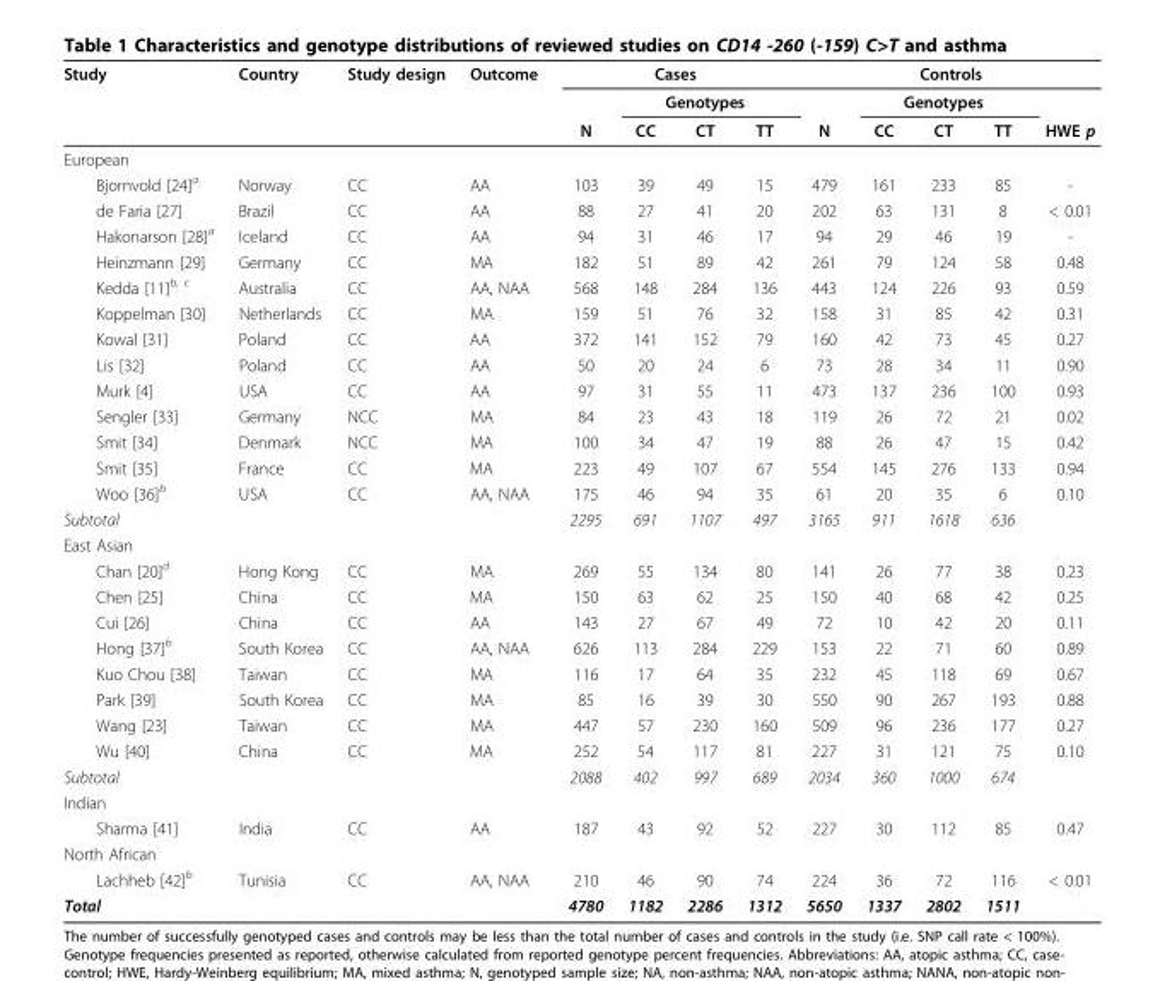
<table><thead><tr><td rowspan="3">Study</td><td rowspan="3">Country</td><td rowspan="3">Study design</td><td rowspan="3">Outcome</td><td colspan="4">Cases</td><td colspan="5">Controls</td></tr><tr><td rowspan="2">N</td><td colspan="3">Genotypes</td><td rowspan="2">N</td><td colspan="3">Genotypes</td><td rowspan="2">HWE p</td></tr><tr><td>CC</td><td>CT</td><td>TT</td><td>CC</td><td>CT</td><td>TT</td></tr></thead><tbody><tr><td colspan="13">European</td></tr><tr><td>Bjornvold [24]<sup>a</sup></td><td>Norway</td><td>CC</td><td>AA</td><td>103</td><td>39</td><td>49</td><td>15</td><td>479</td><td>161</td><td>233</td><td>85</td><td>-</td></tr><tr><td>de Faria [27]</td><td>Brazil</td><td>CC</td><td>AA</td><td>88</td><td>27</td><td>41</td><td>20</td><td>202</td><td>63</td><td>131</td><td>8</td><td>&lt; 0.01</td></tr><tr><td>Hakonarson [28]<sup>a</sup></td><td>Iceland</td><td>CC</td><td>AA</td><td>94</td><td>31</td><td>46</td><td>17</td><td>94</td><td>29</td><td>46</td><td>19</td><td>-</td></tr><tr><td>Heinzmann [29]</td><td>Germany</td><td>CC</td><td>MA</td><td>182</td><td>51</td><td>89</td><td>42</td><td>261</td><td>79</td><td>124</td><td>58</td><td>0.48</td></tr><tr><td>Kedda [11]<sup>b, c</sup></td><td>Australia</td><td>CC</td><td>AA, NAA</td><td>568</td><td>148</td><td>284</td><td>136</td><td>443</td><td>124</td><td>226</td><td>93</td><td>0.59</td></tr><tr><td>Koppelman [30]</td><td>Netherlands</td><td>CC</td><td>MA</td><td>159</td><td>51</td><td>76</td><td>32</td><td>158</td><td>31</td><td>85</td><td>42</td><td>0.31</td></tr><tr><td>Kowal [31]</td><td>Poland</td><td>CC</td><td>AA</td><td>372</td><td>141</td><td>152</td><td>79</td><td>160</td><td>42</td><td>73</td><td>45</td><td>0.27</td></tr><tr><td>Lis [32]</td><td>Poland</td><td>CC</td><td>AA</td><td>50</td><td>20</td><td>24</td><td>6</td><td>73</td><td>28</td><td>34</td><td>11</td><td>0.90</td></tr><tr><td>Murk [4]</td><td>USA</td><td>CC</td><td>AA</td><td>97</td><td>31</td><td>55</td><td>11</td><td>473</td><td>137</td><td>236</td><td>100</td><td>0.93</td></tr><tr><td>Sengler [33]</td><td>Germany</td><td>NCC</td><td>MA</td><td>84</td><td>23</td><td>43</td><td>18</td><td>119</td><td>26</td><td>72</td><td>21</td><td>0.02</td></tr><tr><td>Smit [34]</td><td>Denmark</td><td>NCC</td><td>MA</td><td>100</td><td>34</td><td>47</td><td>19</td><td>88</td><td>26</td><td>47</td><td>15</td><td>0.42</td></tr><tr><td>Smit [35]</td><td>France</td><td>CC</td><td>MA</td><td>223</td><td>49</td><td>107</td><td>67</td><td>554</td><td>145</td><td>276</td><td>133</td><td>0.94</td></tr><tr><td>Woo [36]<sup>b</sup></td><td>USA</td><td>CC</td><td>AA, NAA</td><td>175</td><td>46</td><td>94</td><td>35</td><td>61</td><td>20</td><td>35</td><td>6</td><td>0.10</td></tr><tr><td>Subtotal</td><td></td><td></td><td></td><td>2295</td><td>691</td><td>1107</td><td>497</td><td>3165</td><td>911</td><td>1618</td><td>636</td><td></td></tr><tr><td colspan="13">East Asian</td></tr><tr><td>Chan [20]<sup>d</sup></td><td>Hong Kong</td><td>CC</td><td>MA</td><td>269</td><td>55</td><td>134</td><td>80</td><td>141</td><td>26</td><td>77</td><td>38</td><td>0.23</td></tr><tr><td>Chen [25]</td><td>China</td><td>CC</td><td>MA</td><td>150</td><td>63</td><td>62</td><td>25</td><td>150</td><td>40</td><td>68</td><td>42</td><td>0.25</td></tr><tr><td>Cui [26]</td><td>China</td><td>CC</td><td>AA</td><td>143</td><td>27</td><td>67</td><td>49</td><td>72</td><td>10</td><td>42</td><td>20</td><td>0.11</td></tr><tr><td>Hong [37]<sup>b</sup></td><td>South Korea</td><td>CC</td><td>AA, NAA</td><td>626</td><td>113</td><td>284</td><td>229</td><td>153</td><td>22</td><td>71</td><td>60</td><td>0.89</td></tr><tr><td>Kuo Chou [38]</td><td>Taiwan</td><td>CC</td><td>MA</td><td>116</td><td>17</td><td>64</td><td>35</td><td>232</td><td>45</td><td>118</td><td>69</td><td>0.67</td></tr><tr><td>Park [39]</td><td>South Korea</td><td>CC</td><td>MA</td><td>85</td><td>16</td><td>39</td><td>30</td><td>550</td><td>90</td><td>267</td><td>193</td><td>0.88</td></tr><tr><td>Wang [23]</td><td>Taiwan</td><td>CC</td><td>MA</td><td>447</td><td>57</td><td>230</td><td>160</td><td>509</td><td>96</td><td>236</td><td>177</td><td>0.27</td></tr><tr><td>Wu [40]</td><td>China</td><td>CC</td><td>MA</td><td>252</td><td>54</td><td>117</td><td>81</td><td>227</td><td>31</td><td>121</td><td>75</td><td>0.10</td></tr><tr><td>Subtotal</td><td></td><td></td><td></td><td>2088</td><td>402</td><td>997</td><td>689</td><td>2034</td><td>360</td><td>1000</td><td>674</td><td></td></tr><tr><td colspan="13">Indian</td></tr><tr><td>Sharma [41]</td><td>India</td><td>CC</td><td>AA</td><td>187</td><td>43</td><td>92</td><td>52</td><td>227</td><td>30</td><td>112</td><td>85</td><td>0.47</td></tr><tr><td colspan="13">North African</td></tr><tr><td>Lachheb [42]<sup>b</sup></td><td>Tunisia</td><td>CC</td><td>AA, NAA</td><td>210</td><td>46</td><td>90</td><td>74</td><td>224</td><td>36</td><td>72</td><td>116</td><td>&lt; 0.01</td></tr><tr><td>Total</td><td></td><td></td><td></td><td>4780</td><td>1182</td><td>2286</td><td>1312</td><td>5650</td><td>1337</td><td>2802</td><td>1511</td><td></td></tr></tbody></table>